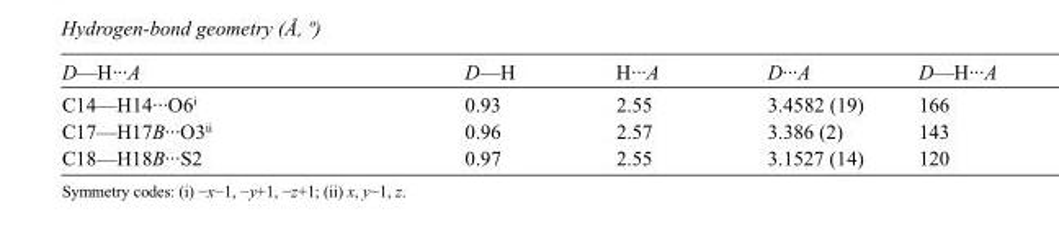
<table><tbody><tr><td>D—H···A</td><td>D—H</td><td>H···A</td><td>D···A</td><td>D—H···A</td></tr><tr><td>C14—H14···O6<sup>i</sup></td><td>0.93</td><td>2.55</td><td>3.4582 (19)</td><td>166</td></tr><tr><td>C17—H17B···O3<sup>ii</sup></td><td>0.96</td><td>2.57</td><td>3.386 (2)</td><td>143</td></tr><tr><td>C18—H18B···S2</td><td>0.97</td><td>2.55</td><td>3.1527 (14)</td><td>120</td></tr></tbody></table>